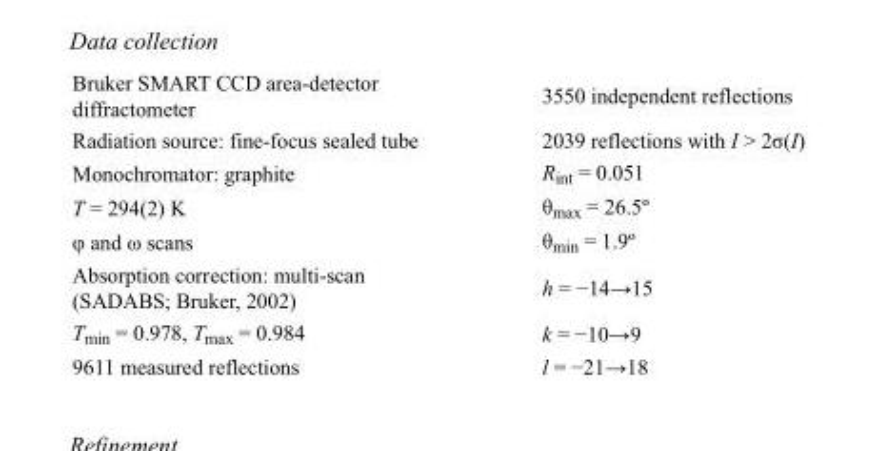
<table><tbody><tr><td>Bruker SMART CCD area-detector diffractometer</td><td>3550 independent reflections</td></tr><tr><td>Radiation source: fine-focus sealed tube</td><td>2039 reflections with I &gt; 2σ(I)</td></tr><tr><td>Monochromator: graphite</td><td>R<sub>int</sub> = 0.051</td></tr><tr><td>T = 294(2) K</td><td>θ<sub>max</sub> = 26.5º</td></tr><tr><td>φ and ω scans</td><td>θ<sub>min</sub> = 1.9º</td></tr><tr><td>Absorption correction: multi-scan (SADABS; Bruker, 2002)</td><td>h = −14→15</td></tr><tr><td>T<sub>min</sub> = 0.978, T<sub>max</sub> = 0.984</td><td>k = −10→9</td></tr><tr><td>9611 measured reflections</td><td>l = −21→18</td></tr></tbody></table>